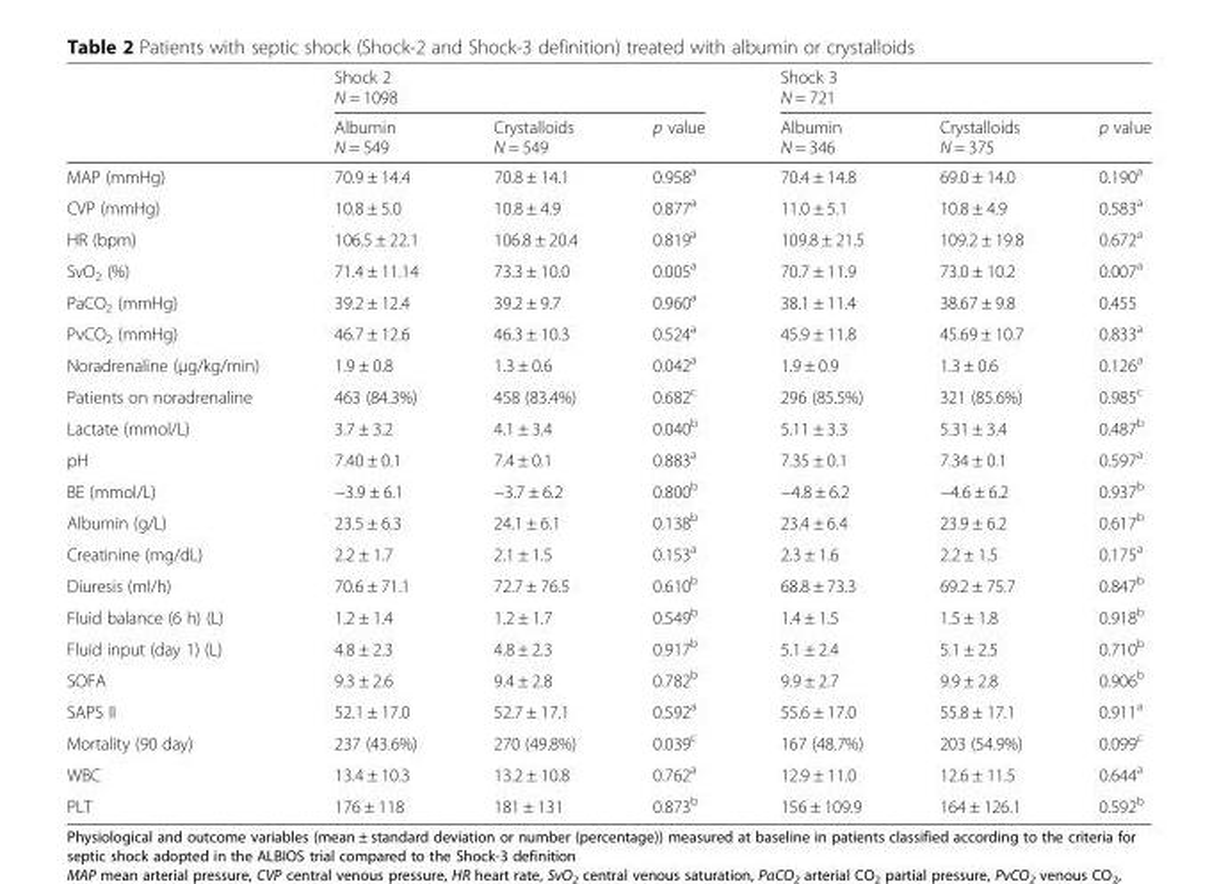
<table><thead><tr><td rowspan="2"></td><td colspan="3">Shock 2 N = 1098</td><td colspan="3">Shock 3 N = 721</td></tr><tr><td>Albumin N = 549</td><td>Crystalloids N = 549</td><td>p value</td><td>Albumin N = 346</td><td>Crystalloids N = 375</td><td>p value</td></tr></thead><tbody><tr><td>MAP (mmHg)</td><td>70.9 ± 14.4</td><td>70.8 ± 14.1</td><td>0.958<sup>a</sup></td><td>70.4 ± 14.8</td><td>69.0 ± 14.0</td><td>0.190<sup>a</sup></td></tr><tr><td>CVP (mmHg)</td><td>10.8 ± 5.0</td><td>10.8 ± 4.9</td><td>0.877<sup>a</sup></td><td>11.0 ± 5.1</td><td>10.8 ± 4.9</td><td>0.583<sup>a</sup></td></tr><tr><td>HR (bpm)</td><td>106.5 ± 22.1</td><td>106.8 ± 20.4</td><td>0.819<sup>a</sup></td><td>109.8 ± 21.5</td><td>109.2 ± 19.8</td><td>0.672<sup>a</sup></td></tr><tr><td>SvO<sub>2</sub> (%)</td><td>71.4 ± 11.14</td><td>73.3 ± 10.0</td><td>0.005<sup>a</sup></td><td>70.7 ± 11.9</td><td>73.0 ± 10.2</td><td>0.007<sup>a</sup></td></tr><tr><td>PaCO<sub>2</sub> (mmHg)</td><td>39.2 ± 12.4</td><td>39.2 ± 9.7</td><td>0.960<sup>a</sup></td><td>38.1 ± 11.4</td><td>38.67 ± 9.8</td><td>0.455</td></tr><tr><td>PvCO<sub>2</sub> (mmHg)</td><td>46.7 ± 12.6</td><td>46.3 ± 10.3</td><td>0.524<sup>a</sup></td><td>45.9 ± 11.8</td><td>45.69 ± 10.7</td><td>0.833<sup>a</sup></td></tr><tr><td>Noradrenaline (μg/kg/min)</td><td>1.9 ± 0.8</td><td>1.3 ± 0.6</td><td>0.042<sup>a</sup></td><td>1.9 ± 0.9</td><td>1.3 ± 0.6</td><td>0.126<sup>a</sup></td></tr><tr><td>Patients on noradrenaline</td><td>463 (84.3%)</td><td>458 (83.4%)</td><td>0.682<sup>c</sup></td><td>296 (85.5%)</td><td>321 (85.6%)</td><td>0.985<sup>c</sup></td></tr><tr><td>Lactate (mmol/L)</td><td>3.7 ± 3.2</td><td>4.1 ± 3.4</td><td>0.040<sup>b</sup></td><td>5.11 ± 3.3</td><td>5.31 ± 3.4</td><td>0.487<sup>b</sup></td></tr><tr><td>pH</td><td>7.40 ± 0.1</td><td>7.4 ± 0.1</td><td>0.883<sup>a</sup></td><td>7.35 ± 0.1</td><td>7.34 ± 0.1</td><td>0.597<sup>a</sup></td></tr><tr><td>BE (mmol/L)</td><td>−3.9 ± 6.1</td><td>−3.7 ± 6.2</td><td>0.800<sup>b</sup></td><td>−4.8 ± 6.2</td><td>−4.6 ± 6.2</td><td>0.937<sup>b</sup></td></tr><tr><td>Albumin (g/L)</td><td>23.5 ± 6.3</td><td>24.1 ± 6.1</td><td>0.138<sup>b</sup></td><td>23.4 ± 6.4</td><td>23.9 ± 6.2</td><td>0.617<sup>b</sup></td></tr><tr><td>Creatinine (mg/dL)</td><td>2.2 ± 1.7</td><td>2.1 ± 1.5</td><td>0.153<sup>a</sup></td><td>2.3 ± 1.6</td><td>2.2 ± 1.5</td><td>0.175<sup>a</sup></td></tr><tr><td>Diuresis (ml/h)</td><td>70.6 ± 71.1</td><td>72.7 ± 76.5</td><td>0.610<sup>b</sup></td><td>68.8 ± 73.3</td><td>69.2 ± 75.7</td><td>0.847<sup>b</sup></td></tr><tr><td>Fluid balance (6 h) (L)</td><td>1.2 ± 1.4</td><td>1.2 ± 1.7</td><td>0.549<sup>b</sup></td><td>1.4 ± 1.5</td><td>1.5 ± 1.8</td><td>0.918<sup>b</sup></td></tr><tr><td>Fluid input (day 1) (L)</td><td>4.8 ± 2.3</td><td>4.8 ± 2.3</td><td>0.917<sup>b</sup></td><td>5.1 ± 2.4</td><td>5.1 ± 2.5</td><td>0.710<sup>b</sup></td></tr><tr><td>SOFA</td><td>9.3 ± 2.6</td><td>9.4 ± 2.8</td><td>0.782<sup>b</sup></td><td>9.9 ± 2.7</td><td>9.9 ± 2.8</td><td>0.906<sup>b</sup></td></tr><tr><td>SAPS II</td><td>52.1 ± 17.0</td><td>52.7 ± 17.1</td><td>0.592<sup>a</sup></td><td>55.6 ± 17.0</td><td>55.8 ± 17.1</td><td>0.911<sup>a</sup></td></tr><tr><td>Mortality (90 day)</td><td>237 (43.6%)</td><td>270 (49.8%)</td><td>0.039<sup>c</sup></td><td>167 (48.7%)</td><td>203 (54.9%)</td><td>0.099<sup>c</sup></td></tr><tr><td>WBC</td><td>13.4 ± 10.3</td><td>13.2 ± 10.8</td><td>0.762<sup>a</sup></td><td>12.9 ± 11.0</td><td>12.6 ± 11.5</td><td>0.644<sup>a</sup></td></tr><tr><td>PLT</td><td>176 ± 118</td><td>181 ± 131</td><td>0.873<sup>b</sup></td><td>156 ± 109.9</td><td>164 ± 126.1</td><td>0.592<sup>b</sup></td></tr></tbody></table>